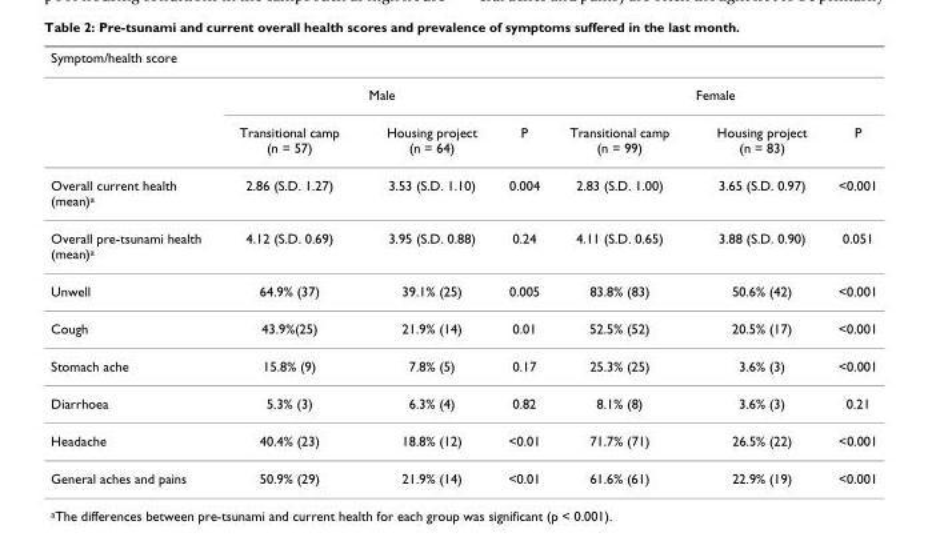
<table><thead><tr><td>Symptom/health score</td><td></td><td></td><td></td><td></td><td></td><td></td></tr></thead><tbody><tr><td></td><td colspan="3">Male</td><td colspan="3">Female</td></tr><tr><td></td><td>Transitional camp (n = 57)</td><td>Housing project (n = 64)</td><td>P</td><td>Transitional camp (n = 99)</td><td>Housing project (n = 83)</td><td>P</td></tr><tr><td>Overall current health (mean)<sup>a</sup></td><td>2.86 (S.D. 1.27)</td><td>3.53 (S.D. 1.10)</td><td>0.004</td><td>2.83 (S.D. 1.00)</td><td>3.65 (S.D. 0.97)</td><td>&lt;0.001</td></tr><tr><td>Overall pre-tsunami health (mean)<sup>a</sup></td><td>4.12 (S.D. 0.69)</td><td>3.95 (S.D. 0.88)</td><td>0.24</td><td>4.11 (S.D. 0.65)</td><td>3.88 (S.D. 0.90)</td><td>0.051</td></tr><tr><td>Unwell</td><td>64.9% (37)</td><td>39.1% (25)</td><td>0.005</td><td>83.8% (83)</td><td>50.6% (42)</td><td>&lt;0.001</td></tr><tr><td>Cough</td><td>43.9%(25)</td><td>21.9% (14)</td><td>0.01</td><td>52.5% (52)</td><td>20.5% (17)</td><td>&lt;0.001</td></tr><tr><td>Stomach ache</td><td>15.8% (9)</td><td>7.8% (5)</td><td>0.17</td><td>25.3% (25)</td><td>3.6% (3)</td><td>&lt;0.001</td></tr><tr><td>Diarrhoea</td><td>5.3% (3)</td><td>6.3% (4)</td><td>0.82</td><td>8.1% (8)</td><td>3.6% (3)</td><td>0.21</td></tr><tr><td>Headache</td><td>40.4% (23)</td><td>18.8% (12)</td><td>&lt;0.01</td><td>71.7% (71)</td><td>26.5% (22)</td><td>&lt;0.001</td></tr><tr><td>General aches and pains</td><td>50.9% (29)</td><td>21.9% (14)</td><td>&lt;0.01</td><td>61.6% (61)</td><td>22.9% (19)</td><td>&lt;0.001</td></tr></tbody></table>